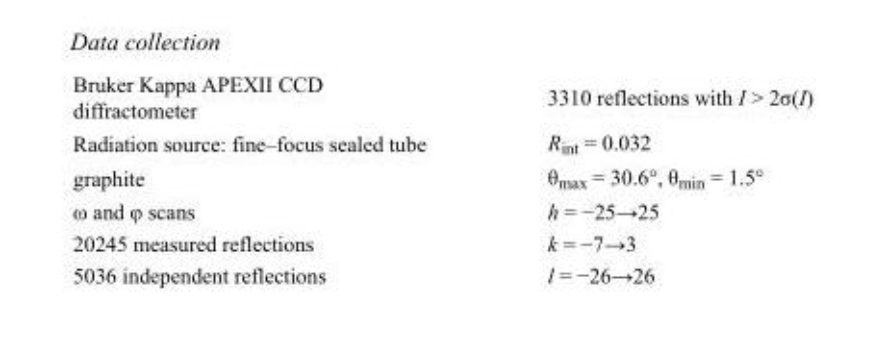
<table><tbody><tr><td>Bruker Kappa APEXII CCD diffractometer</td><td>3310 reflections with I &gt; 2σ(I)</td></tr><tr><td>Radiation source: fine–focus sealed tube</td><td>R<sub>int</sub> = 0.032</td></tr><tr><td>graphite</td><td>θ<sub>max</sub> = 30.6°, θ<sub>min</sub> = 1.5°</td></tr><tr><td>ω and φ scans</td><td>h = −25→25</td></tr><tr><td>20245 measured reflections</td><td>k = −7→3</td></tr><tr><td>5036 independent reflections</td><td>l = −26→26</td></tr></tbody></table>